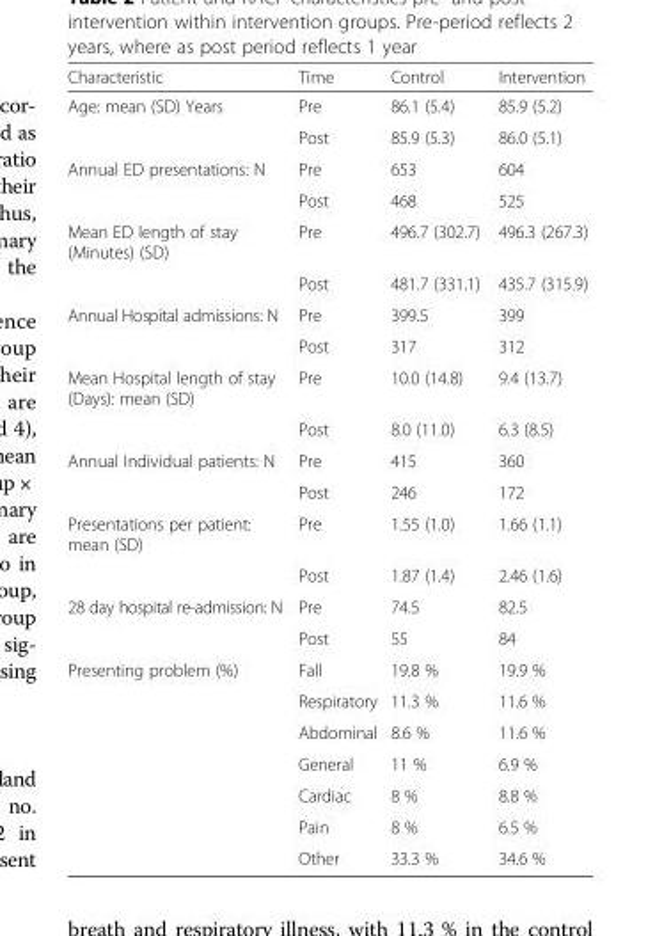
<table><thead><tr><td>Characteristic</td><td>Time</td><td>Control</td><td>Intervention</td></tr></thead><tbody><tr><td rowspan="2">Age: mean (SD) Years</td><td>Pre</td><td>86.1 (5.4)</td><td>85.9 (5.2)</td></tr><tr><td>Post</td><td>85.9 (5.3)</td><td>86.0 (5.1)</td></tr><tr><td rowspan="2">Annual ED presentations: N</td><td>Pre</td><td>653</td><td>604</td></tr><tr><td>Post</td><td>468</td><td>525</td></tr><tr><td rowspan="2">Mean ED length of stay (Minutes) (SD)</td><td>Pre</td><td>496.7 (302.7)</td><td>496.3 (267.3)</td></tr><tr><td>Post</td><td>481.7 (331.1)</td><td>435.7 (315.9)</td></tr><tr><td rowspan="2">Annual Hospital admissions: N</td><td>Pre</td><td>399.5</td><td>399</td></tr><tr><td>Post</td><td>317</td><td>312</td></tr><tr><td rowspan="2">Mean Hospital length of stay (Days): mean (SD)</td><td>Pre</td><td>10.0 (14.8)</td><td>9.4 (13.7)</td></tr><tr><td>Post</td><td>8.0 (11.0)</td><td>6.3 (8.5)</td></tr><tr><td rowspan="2">Annual Individual patients: N</td><td>Pre</td><td>415</td><td>360</td></tr><tr><td>Post</td><td>246</td><td>172</td></tr><tr><td rowspan="2">Presentations per patient: mean (SD)</td><td>Pre</td><td>1.55 (1.0)</td><td>1.66 (1.1)</td></tr><tr><td>Post</td><td>1.87 (1.4)</td><td>2.46 (1.6)</td></tr><tr><td rowspan="2">28 day hospital re-admission: N</td><td>Pre</td><td>74.5</td><td>82.5</td></tr><tr><td>Post</td><td>55</td><td>84</td></tr><tr><td rowspan="7">Presenting problem (%)</td><td>Fall</td><td>19.8 %</td><td>19.9 %</td></tr><tr><td>Respiratory</td><td>11.3 %</td><td>11.6 %</td></tr><tr><td>Abdominal</td><td>8.6 %</td><td>11.6 %</td></tr><tr><td>General</td><td>11 %</td><td>6.9 %</td></tr><tr><td>Cardiac</td><td>8 %</td><td>8.8 %</td></tr><tr><td>Pain</td><td>8 %</td><td>6.5 %</td></tr><tr><td>Other</td><td>33.3 %</td><td>34.6 %</td></tr></tbody></table>